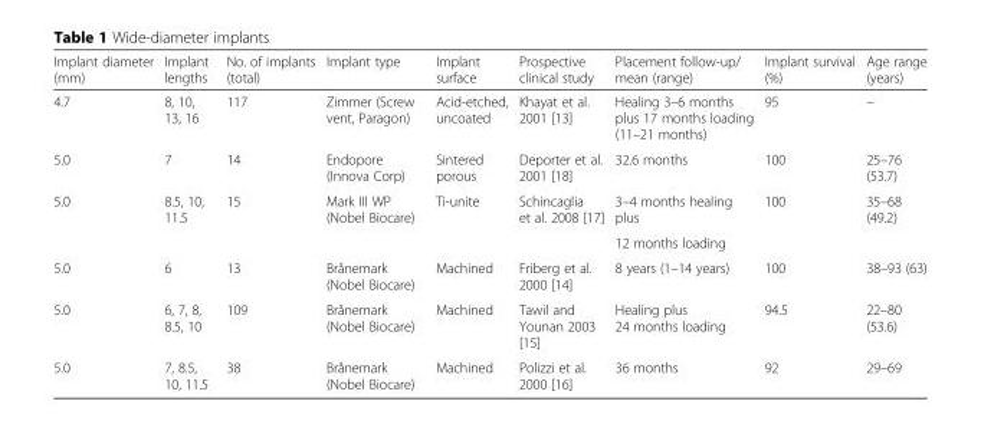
<table><thead><tr><td>Implant diameter (mm)</td><td>Implant lengths</td><td>No. of implants (total)</td><td>Implant type</td><td>Implant surface</td><td>Prospective clinical study</td><td>Placement follow-up/ mean (range)</td><td>Implant survival (%)</td><td>Age range (years)</td></tr></thead><tbody><tr><td>4.7</td><td>8, 10, 13, 16</td><td>117</td><td>Zimmer (Screw vent, Paragon)</td><td>Acid-etched, uncoated</td><td>Khayat et al. 2001 [13]</td><td>Healing 3–6 months plus 17 months loading (11–21 months)</td><td>95</td><td>–</td></tr><tr><td>5.0</td><td>7</td><td>14</td><td>Endopore (Innova Corp)</td><td>Sintered porous</td><td>Deporter et al. 2001 [18]</td><td>32.6 months</td><td>100</td><td>25–76 (53.7)</td></tr><tr><td rowspan="2">5.0</td><td rowspan="2">8.5, 10, 11.5</td><td rowspan="2">15</td><td rowspan="2">Mark III WP (Nobel Biocare)</td><td rowspan="2">Ti-unite</td><td rowspan="2">Schincaglia et al. 2008 [17]</td><td>3–4 months healing plus</td><td rowspan="2">100</td><td rowspan="2">35–68 (49.2)</td></tr><tr><td>12 months loading</td></tr><tr><td>5.0</td><td>6</td><td>13</td><td>Brånemark (Nobel Biocare)</td><td>Machined</td><td>Friberg et al. 2000 [14]</td><td>8 years (1–14 years)</td><td>100</td><td>38–93 (63)</td></tr><tr><td>5.0</td><td>6, 7, 8, 8.5, 10</td><td>109</td><td>Brånemark (Nobel Biocare)</td><td>Machined</td><td>Tawil and Younan 2003 [15]</td><td>Healing plus 24 months loading</td><td>94.5</td><td>22–80 (53.6)</td></tr><tr><td>5.0</td><td>7, 8.5, 10, 11.5</td><td>38</td><td>Brånemark (Nobel Biocare)</td><td>Machined</td><td>Polizzi et al. 2000 [16]</td><td>36 months</td><td>92</td><td>29–69</td></tr></tbody></table>